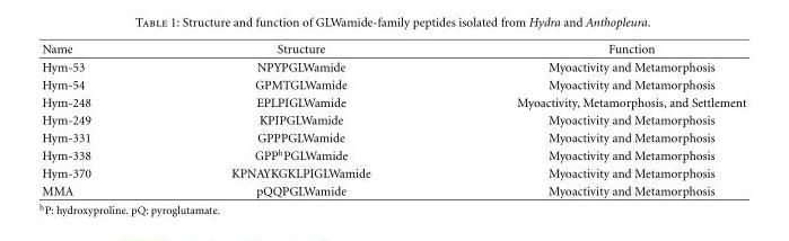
<table><thead><tr><td>Name</td><td>Structure</td><td>Function</td></tr></thead><tbody><tr><td>Hym-53</td><td>NPYPGLWamide</td><td>Myoactivity and Metamorphosis</td></tr><tr><td>Hym-54</td><td>GPMTGLWamide</td><td>Myoactivity and Metamorphosis</td></tr><tr><td>Hym-248</td><td>EPLPIGLWamide</td><td>Myoactivity, Metamorphosis, and Settlement</td></tr><tr><td>Hym-249</td><td>KPIPGLWamide</td><td>Myoactivity and Metamorphosis</td></tr><tr><td>Hym-331</td><td>GPPPGLWamide</td><td>Myoactivity and Metamorphosis</td></tr><tr><td>Hym-338</td><td>GPP<sup>h</sup>PGLWamide</td><td>Myoactivity and Metamorphosis</td></tr><tr><td>Hym-370</td><td>KPNAYKGKLPIGLWamide</td><td>Myoactivity and Metamorphosis</td></tr><tr><td>MMA</td><td>pQQPGLWamide</td><td>Myoactivity and Metamorphosis</td></tr></tbody></table>